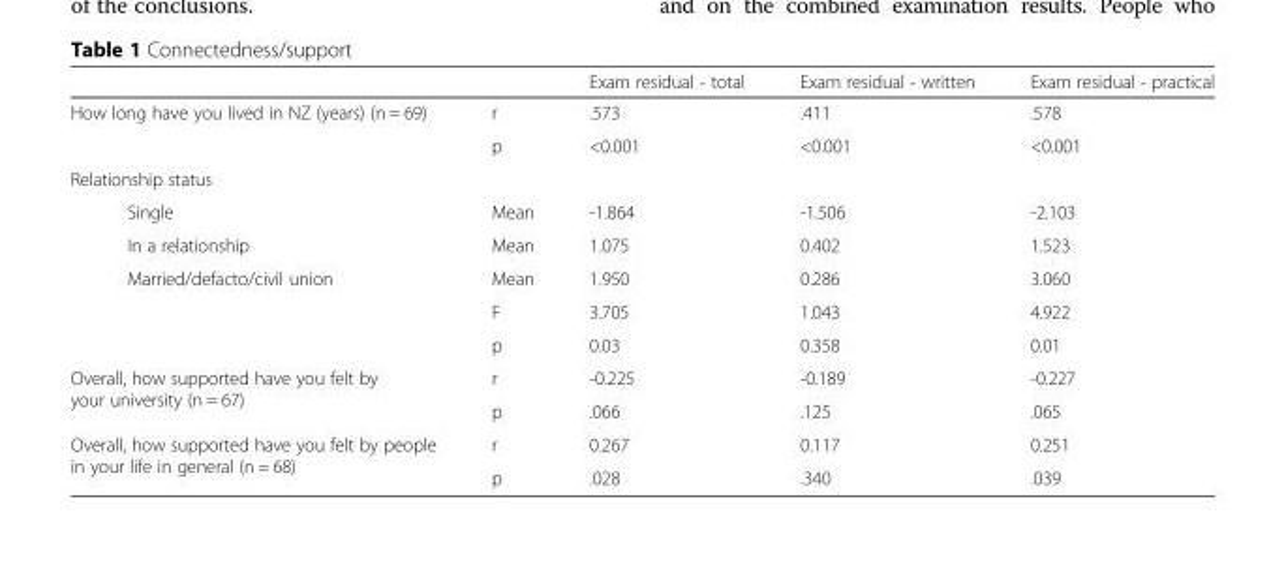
<table><thead><tr><td></td><td></td><td>Exam residual - total</td><td>Exam residual - written</td><td>Exam residual - practical</td></tr></thead><tbody><tr><td rowspan="2">How long have you lived in NZ (years) (n = 69)</td><td>r</td><td>.573</td><td>.411</td><td>.578</td></tr><tr><td>p</td><td>&lt;0.001</td><td>&lt;0.001</td><td>&lt;0.001</td></tr><tr><td colspan="5">Relationship status</td></tr><tr><td>Single</td><td>Mean</td><td>-1.864</td><td>-1.506</td><td>-2.103</td></tr><tr><td>In a relationship</td><td>Mean</td><td>1.075</td><td>0.402</td><td>1.523</td></tr><tr><td rowspan="3">Married/defacto/civil union</td><td>Mean</td><td>1.950</td><td>0.286</td><td>3.060</td></tr><tr><td>F</td><td>3.705</td><td>1.043</td><td>4.922</td></tr><tr><td>p</td><td>0.03</td><td>0.358</td><td>0.01</td></tr><tr><td rowspan="2">Overall, how supported have you felt by your university (n = 67)</td><td>r</td><td>-0.225</td><td>-0.189</td><td>-0.227</td></tr><tr><td>p</td><td>.066</td><td>.125</td><td>.065</td></tr><tr><td rowspan="2">Overall, how supported have you felt by people in your life in general (n = 68)</td><td>r</td><td>0.267</td><td>0.117</td><td>0.251</td></tr><tr><td>p</td><td>.028</td><td>.340</td><td>.039</td></tr></tbody></table>